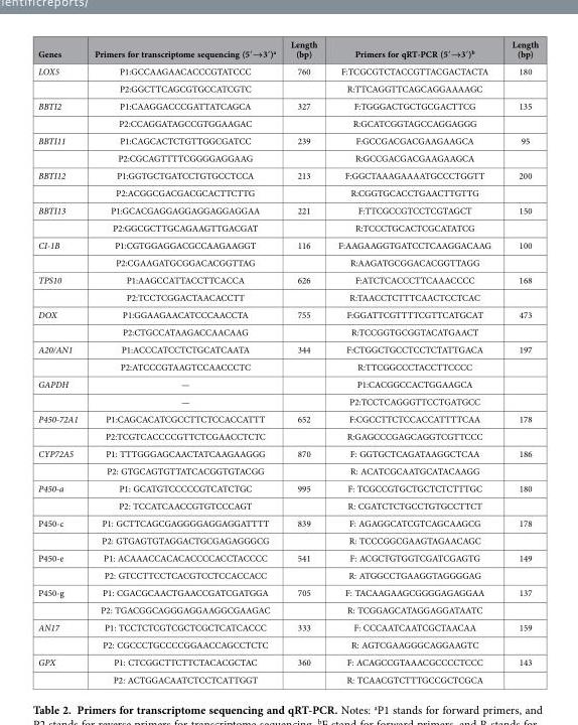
<table><thead><tr><td>Genes</td><td>Primers for transcriptome sequencing (5′→3′)<sup>a</sup></td><td>Length (bp)</td><td>Primers for qRT-PCR (5′→3′)<sup>b</sup></td><td>Length (bp)</td></tr></thead><tbody><tr><td rowspan="2">LOX5</td><td>P1:GCCAAGAACACCCGTATCCC</td><td>760</td><td>F:TCGCGTCTACCGTTACGACTACTA</td><td>180</td></tr><tr><td>P2:GGCTTCAGCGTGCCATCGTC</td><td></td><td>R:TTCAGGTTCAGCAGGAAAAGC</td><td></td></tr><tr><td rowspan="2">BBTI2</td><td>P1:CAAGGACCCGATTATCAGCA</td><td>327</td><td>F:TGGGACTGCTGCGACTTCG</td><td>135</td></tr><tr><td>P2:CCAGGATAGCCGTGGAAGAC</td><td></td><td>R:GCATCGGTAGCCAGGAGGG</td><td></td></tr><tr><td rowspan="2">BBTI11</td><td>P1:CAGCACTCTGTTGGCGATCC</td><td>239</td><td>F:GCCGACGACGAAGAAGCA</td><td>95</td></tr><tr><td>P2:CGCAGTTTTCGGGGAGGAAG</td><td></td><td>R:GCCGACGACGAAGAAGCA</td><td></td></tr><tr><td rowspan="2">BBTI12</td><td>P1:GGTGCTGATCCTGTGCCTCCA</td><td>213</td><td>F:GGCTAAAGAAAATGCCCTGGTT</td><td>200</td></tr><tr><td>P2:ACGGCGACGACGCACTTCTTG</td><td></td><td>R:CGGTGCACCTGAACTTGTTG</td><td></td></tr><tr><td rowspan="2">BBTI13</td><td>P1:GCACGAGGAGGAGGAGGAGGAA</td><td>221</td><td>F:TTCGCCGTCCTCGTAGCT</td><td>150</td></tr><tr><td>P2:GGCGCTTGCAGAAGTTGACGAT</td><td></td><td>R:TCCCTGCACTCGCATATCG</td><td></td></tr><tr><td rowspan="2">CI-1B</td><td>P1:CGTGGAGGACGCCAAGAAGGT</td><td>116</td><td>F:AAGAAGGTGATCCTCAAGGACAAG</td><td>100</td></tr><tr><td>P2:CGAAGATGCGGACACGGTTAG</td><td></td><td>R:AAGATGCGGACACGGTTAGG</td><td></td></tr><tr><td rowspan="2">TPS10</td><td>P1:AAGCCATTACCTTCACCA</td><td>626</td><td>F:ATCTCACCCTTCAAACCCC</td><td>168</td></tr><tr><td>P2:TCCTCGGACTAACACCTT</td><td></td><td>R:TAACCTCTTTCAACTCCTCAC</td><td></td></tr><tr><td rowspan="2">DOX</td><td>P1:GGAAGAACATCCCAACCTA</td><td>755</td><td>F:GGATTCGTTTTCGTTCATGCAT</td><td>473</td></tr><tr><td>P2:CTGCCATAAGACCAACAAG</td><td></td><td>R:TCCGGTGCGGTACATGAACT</td><td></td></tr><tr><td rowspan="2">A20/AN1</td><td>P1:ACCCATCCTCTGCATCAATA</td><td>344</td><td>F:CTGGCTGCCTCCTCTATTGACA</td><td>197</td></tr><tr><td>P2:ATCCCGTAAGTCCAACCCTC</td><td></td><td>R:TTCGGCCCTACCTTCCCC</td><td></td></tr><tr><td rowspan="2">GAPDH</td><td>—</td><td></td><td>P1:CACGGCCACTGGAAGCA</td><td></td></tr><tr><td>—</td><td></td><td>P2:TCCTCAGGGTTCCTGATGCC</td><td></td></tr><tr><td rowspan="2">P450-72A1</td><td>P1:CAGCACATCGCCTTCTCCACCATTT</td><td>652</td><td>F:CGCCTTCTCCACCATTTTCAA</td><td>178</td></tr><tr><td>P2:TCGTCACCCCGTTCTCGAACCTCTC</td><td></td><td>R:GAGCCCGAGCAGGTCGTTCCC</td><td></td></tr><tr><td rowspan="2">CYP72A5</td><td>P1: TTTGGGAGCAACTATCAAGAAGGG</td><td>870</td><td>F: GGTGCTCAGATAAGGCTCAA</td><td>186</td></tr><tr><td>P2: GTGCAGTGTTATCACGGTGTACGG</td><td></td><td>R: ACATCGCAATGCATACAAGG</td><td></td></tr><tr><td rowspan="2">P450-a</td><td>P1: GCATGTCCCCCGTCATCTGC</td><td>995</td><td>F: TCGCCGTGCTGCTCTCTTTGC</td><td>180</td></tr><tr><td>P2: TCCATCAACCGTGTCCCAGT</td><td></td><td>R: CGATCTCTGCCTGTGCCTTCT</td><td></td></tr><tr><td rowspan="2">P450-c</td><td>P1: GCTTCAGCGAGGGGAGGAGGATTTT</td><td>839</td><td>F: AGAGGCATCGTCAGCAAGCG</td><td>178</td></tr><tr><td>P2: GTGAGTGTAGGACTGCGAGAGGGCG</td><td></td><td>R: TCCCGGCGAAGTAGAACAGC</td><td></td></tr><tr><td rowspan="2">P450-e</td><td>P1: ACAAACCACACACCCCACCTACCCC</td><td>541</td><td>F: ACGCTGTGGTCGATCGAGTG</td><td>149</td></tr><tr><td>P2: GTCCTTCCTCACGTCCTCCACCACC</td><td></td><td>R: ATGGCCTGAAGGTAGGGGAG</td><td></td></tr><tr><td rowspan="2">P450-g</td><td>P1: CGACGCAACTGAACCGATCGATGGA</td><td>705</td><td>F: TACAAGAAGCGGGGAGAGGAA</td><td>137</td></tr><tr><td>P2: TGACGGCAGGGAGGAAGGCGAAGAC</td><td></td><td>R: TCGGAGCATAGGAGGATAATC</td><td></td></tr><tr><td rowspan="2">AN17</td><td>P1: TCCTCTCGTCGCTCGCTCATCACCC</td><td>333</td><td>F: CCCAATCAATCGCTAACAA</td><td>159</td></tr><tr><td>P2: CGCCCTGCCCCGGAACCAGCCTCTC</td><td></td><td>R: AGTCGAAGGGCAGGAAGTC</td><td></td></tr><tr><td rowspan="2">GPX</td><td>P1: CTCGGCTTCTTCTACACGCTAC</td><td>360</td><td>F: ACAGCCGTAAACGCCCCTCCC</td><td>143</td></tr><tr><td>P2: ACTGGACAATCTCCTCATTGGT</td><td></td><td>R: TCAACGTCTTTGCCGCTCGCA</td><td></td></tr></tbody></table>